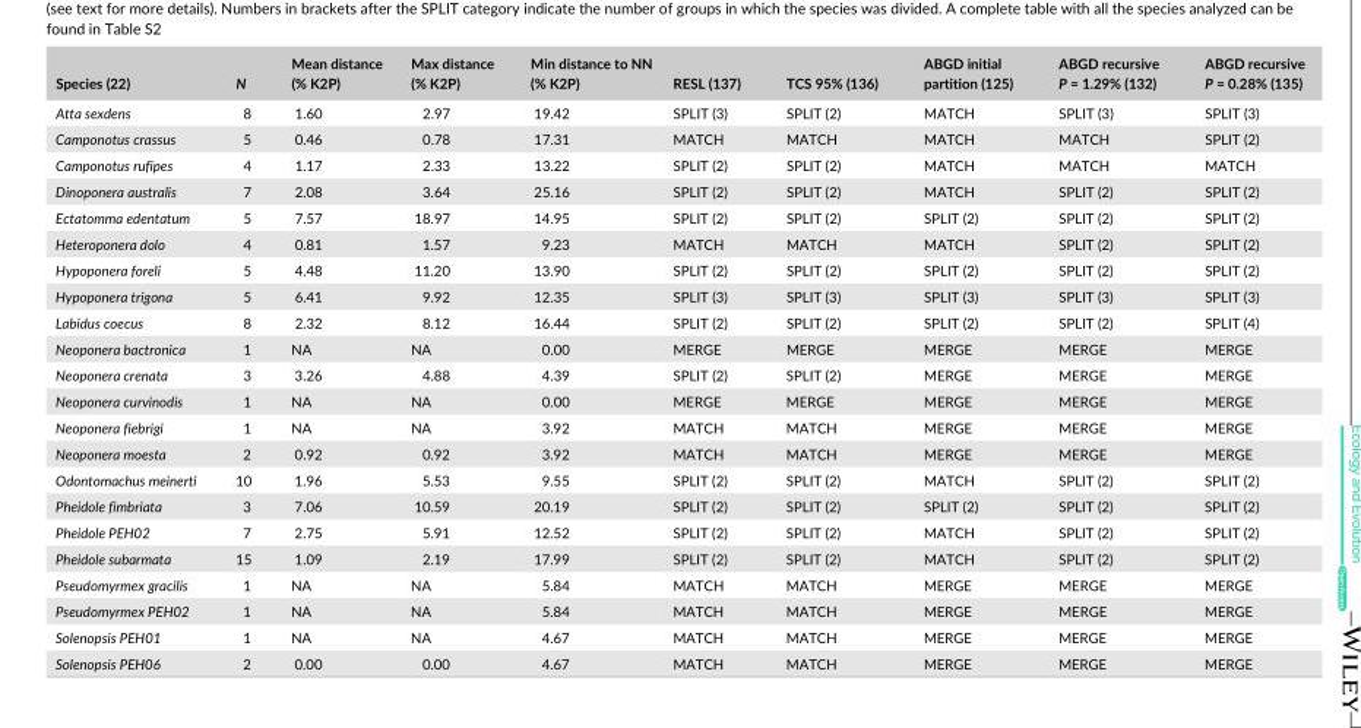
<table><thead><tr><td>Species (22)</td><td>N</td><td>Mean distance (% K2P)</td><td>Max distance (% K2P)</td><td>Min distance to NN (% K2P)</td><td>RESL (137)</td><td>TCS 95% (136)</td><td>ABGD initial partition (125)</td><td>ABGD recursive P = 1.29% (132)</td><td>ABGD recursive P = 0.28% (135)</td></tr></thead><tbody><tr><td>Atta sexdens</td><td>8</td><td>1.60</td><td>2.97</td><td>19.42</td><td>SPLIT (3)</td><td>SPLIT (2)</td><td>MATCH</td><td>SPLIT (3)</td><td>SPLIT (3)</td></tr><tr><td>Camponotus crassus</td><td>5</td><td>0.46</td><td>0.78</td><td>17.31</td><td>MATCH</td><td>MATCH</td><td>MATCH</td><td>MATCH</td><td>SPLIT (2)</td></tr><tr><td>Camponotus rufipes</td><td>4</td><td>1.17</td><td>2.33</td><td>13.22</td><td>SPLIT (2)</td><td>SPLIT (2)</td><td>MATCH</td><td>MATCH</td><td>MATCH</td></tr><tr><td>Dinoponera australis</td><td>7</td><td>2.08</td><td>3.64</td><td>25.16</td><td>SPLIT (2)</td><td>SPLIT (2)</td><td>MATCH</td><td>SPLIT (2)</td><td>SPLIT (2)</td></tr><tr><td>Ectatomma edentatum</td><td>5</td><td>7.57</td><td>18.97</td><td>14.95</td><td>SPLIT (2)</td><td>SPLIT (2)</td><td>SPLIT (2)</td><td>SPLIT (2)</td><td>SPLIT (2)</td></tr><tr><td>Heteroponera dolo</td><td>4</td><td>0.81</td><td>1.57</td><td>9.23</td><td>MATCH</td><td>MATCH</td><td>MATCH</td><td>SPLIT (2)</td><td>SPLIT (2)</td></tr><tr><td>Hypoponera foreli</td><td>5</td><td>4.48</td><td>11.20</td><td>13.90</td><td>SPLIT (2)</td><td>SPLIT (2)</td><td>SPLIT (2)</td><td>SPLIT (2)</td><td>SPLIT (2)</td></tr><tr><td>Hypoponera trigona</td><td>5</td><td>6.41</td><td>9.92</td><td>12.35</td><td>SPLIT (3)</td><td>SPLIT (3)</td><td>SPLIT (3)</td><td>SPLIT (3)</td><td>SPLIT (3)</td></tr><tr><td>Labidus coecus</td><td>8</td><td>2.32</td><td>8.12</td><td>16.44</td><td>SPLIT (2)</td><td>SPLIT (2)</td><td>SPLIT (2)</td><td>SPLIT (2)</td><td>SPLIT (4)</td></tr><tr><td>Neoponera bactronica</td><td>1</td><td>NA</td><td>NA</td><td>0.00</td><td>MERGE</td><td>MERGE</td><td>MERGE</td><td>MERGE</td><td>MERGE</td></tr><tr><td>Neoponera crenata</td><td>3</td><td>3.26</td><td>4.88</td><td>4.39</td><td>SPLIT (2)</td><td>SPLIT (2)</td><td>MERGE</td><td>MERGE</td><td>MERGE</td></tr><tr><td>Neoponera curvinodis</td><td>1</td><td>NA</td><td>NA</td><td>0.00</td><td>MERGE</td><td>MERGE</td><td>MERGE</td><td>MERGE</td><td>MERGE</td></tr><tr><td>Neoponera fiebrigi</td><td>1</td><td>NA</td><td>NA</td><td>3.92</td><td>MATCH</td><td>MATCH</td><td>MERGE</td><td>MERGE</td><td>MERGE</td></tr><tr><td>Neoponera moesta</td><td>2</td><td>0.92</td><td>0.92</td><td>3.92</td><td>MATCH</td><td>MATCH</td><td>MERGE</td><td>MERGE</td><td>MERGE</td></tr><tr><td>Odontomachus meinerti</td><td>10</td><td>1.96</td><td>5.53</td><td>9.55</td><td>SPLIT (2)</td><td>SPLIT (2)</td><td>MATCH</td><td>SPLIT (2)</td><td>SPLIT (2)</td></tr><tr><td>Pheidole fimbriata</td><td>3</td><td>7.06</td><td>10.59</td><td>20.19</td><td>SPLIT (2)</td><td>SPLIT (2)</td><td>SPLIT (2)</td><td>SPLIT (2)</td><td>SPLIT (2)</td></tr><tr><td>Pheidole PEH02</td><td>7</td><td>2.75</td><td>5.91</td><td>12.52</td><td>SPLIT (2)</td><td>SPLIT (2)</td><td>MATCH</td><td>SPLIT (2)</td><td>SPLIT (2)</td></tr><tr><td>Pheidole subarmata</td><td>15</td><td>1.09</td><td>2.19</td><td>17.99</td><td>SPLIT (2)</td><td>SPLIT (2)</td><td>MATCH</td><td>SPLIT (2)</td><td>SPLIT (2)</td></tr><tr><td>Pseudomyrmex gracilis</td><td>1</td><td>NA</td><td>NA</td><td>5.84</td><td>MATCH</td><td>MATCH</td><td>MERGE</td><td>MERGE</td><td>MERGE</td></tr><tr><td>Pseudomyrmex PEH02</td><td>1</td><td>NA</td><td>NA</td><td>5.84</td><td>MATCH</td><td>MATCH</td><td>MERGE</td><td>MERGE</td><td>MERGE</td></tr><tr><td>Solenopsis PEH01</td><td>1</td><td>NA</td><td>NA</td><td>4.67</td><td>MATCH</td><td>MATCH</td><td>MERGE</td><td>MERGE</td><td>MERGE</td></tr><tr><td>Solenopsis PEH06</td><td>2</td><td>0.00</td><td>0.00</td><td>4.67</td><td>MATCH</td><td>MATCH</td><td>MERGE</td><td>MERGE</td><td>MERGE</td></tr></tbody></table>